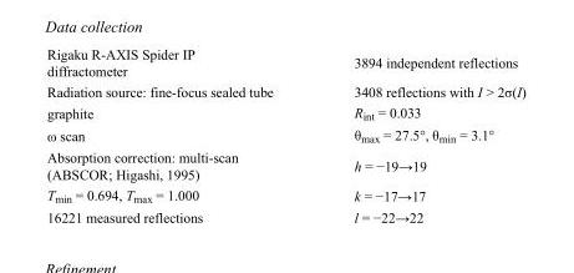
<table><tbody><tr><td>Rigaku R-AXIS Spider IP diffractometer</td><td>3894 independent reflections</td></tr><tr><td>Radiation source: fine-focus sealed tube</td><td>3408 reflections with I &gt; 2σ(I)</td></tr><tr><td>graphite</td><td>R<sub>int</sub> = 0.033</td></tr><tr><td>ω scan</td><td>θ<sub>max</sub> = 27.5°, θ<sub>min</sub> = 3.1°</td></tr><tr><td>Absorption correction: multi-scan (ABSCOR; Higashi, 1995)</td><td>h = −19→19</td></tr><tr><td>T<sub>min</sub> = 0.694, T<sub>max</sub> = 1.000</td><td>k = −17→17</td></tr><tr><td>16221 measured reflections</td><td>l = −22→22</td></tr></tbody></table>